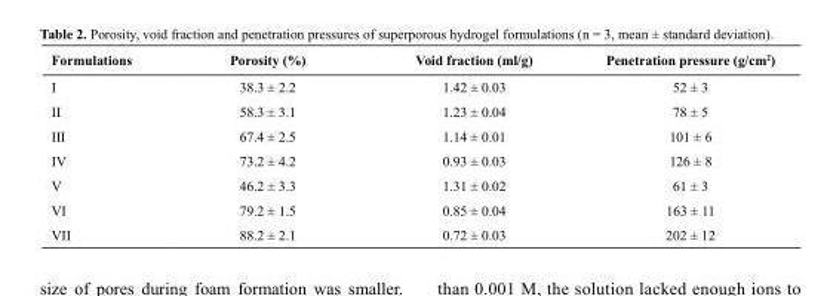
<table><thead><tr><td>Formulations</td><td>Porosity (%)</td><td>Void fraction (ml/g)</td><td>Penetration pressure (g/cm<sup>2</sup>)</td></tr></thead><tbody><tr><td>I</td><td>38.3 ± 2.2</td><td>1.42 ± 0.03</td><td>52 ± 3</td></tr><tr><td>II</td><td>58.3 ± 3.1</td><td>1.23 ± 0.04</td><td>78 ± 5</td></tr><tr><td>III</td><td>67.4 ± 2.5</td><td>1.14 ± 0.01</td><td>101 ± 6</td></tr><tr><td>IV</td><td>73.2 ± 4.2</td><td>0.93 ± 0.03</td><td>126 ± 8</td></tr><tr><td>V</td><td>46.2 ± 3.3</td><td>1.31 ± 0.02</td><td>61 ± 3</td></tr><tr><td>VI</td><td>79.2 ± 1.5</td><td>0.85 ± 0.04</td><td>163 ± 11</td></tr><tr><td>VII</td><td>88.2 ± 2.1</td><td>0.72 ± 0.03</td><td>202 ± 12</td></tr></tbody></table>